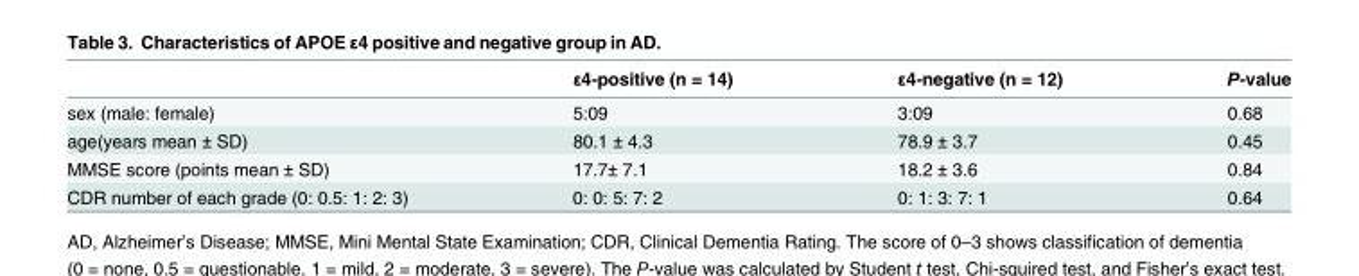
<table><thead><tr><td></td><td>ε4-positive (n = 14)</td><td>ε4-negative (n = 12)</td><td>P-value</td></tr></thead><tbody><tr><td>sex (male: female)</td><td>5:09</td><td>3:09</td><td>0.68</td></tr><tr><td>age(years mean ± SD)</td><td>80.1 ± 4.3</td><td>78.9 ± 3.7</td><td>0.45</td></tr><tr><td>MMSE score (points mean ± SD)</td><td>17.7± 7.1</td><td>18.2 ± 3.6</td><td>0.84</td></tr><tr><td>CDR number of each grade (0: 0.5: 1: 2: 3)</td><td>0: 0: 5: 7: 2</td><td>0: 1: 3: 7: 1</td><td>0.64</td></tr></tbody></table>